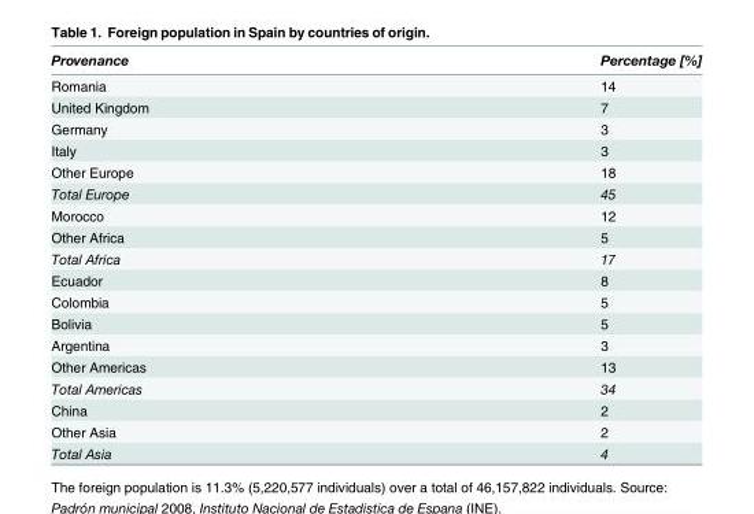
<table><thead><tr><td>Provenance</td><td>Percentage [%]</td></tr></thead><tbody><tr><td>Romania</td><td>14</td></tr><tr><td>United Kingdom</td><td>7</td></tr><tr><td>Germany</td><td>3</td></tr><tr><td>Italy</td><td>3</td></tr><tr><td>Other Europe</td><td>18</td></tr><tr><td>Total Europe</td><td>45</td></tr><tr><td>Morocco</td><td>12</td></tr><tr><td>Other Africa</td><td>5</td></tr><tr><td>Total Africa</td><td>17</td></tr><tr><td>Ecuador</td><td>8</td></tr><tr><td>Colombia</td><td>5</td></tr><tr><td>Bolivia</td><td>5</td></tr><tr><td>Argentina</td><td>3</td></tr><tr><td>Other Americas</td><td>13</td></tr><tr><td>Total Americas</td><td>34</td></tr><tr><td>China</td><td>2</td></tr><tr><td>Other Asia</td><td>2</td></tr><tr><td>Total Asia</td><td>4</td></tr></tbody></table>